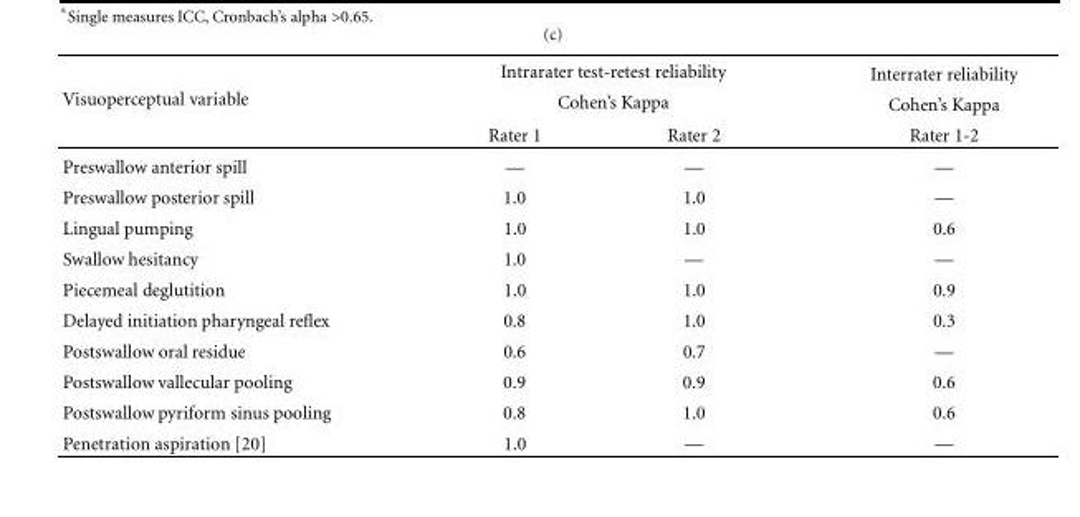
<table><tbody><tr><td rowspan="3">Visuoperceptual variable</td><td colspan="2">Intrarater test-retest reliability</td><td>Interrater reliability</td></tr><tr><td colspan="2">Cohen’s Kappa</td><td>Cohen’s Kappa</td></tr><tr><td>Rater 1</td><td>Rater 2</td><td>Rater 1-2</td></tr><tr><td>Preswallow anterior spill</td><td>—</td><td>—</td><td>—</td></tr><tr><td>Preswallow posterior spill</td><td>1.0</td><td>1.0</td><td>—</td></tr><tr><td>Lingual pumping</td><td>1.0</td><td>1.0</td><td>0.6</td></tr><tr><td>Swallow hesitancy</td><td>1.0</td><td>—</td><td>—</td></tr><tr><td>Piecemeal deglutition</td><td>1.0</td><td>1.0</td><td>0.9</td></tr><tr><td>Delayed initiation pharyngeal reflex</td><td>0.8</td><td>1.0</td><td>0.3</td></tr><tr><td>Postswallow oral residue</td><td>0.6</td><td>0.7</td><td>—</td></tr><tr><td>Postswallow vallecular pooling</td><td>0.9</td><td>0.9</td><td>0.6</td></tr><tr><td>Postswallow pyriform sinus pooling</td><td>0.8</td><td>1.0</td><td>0.6</td></tr><tr><td>Penetration aspiration [20]</td><td>1.0</td><td>—</td><td>—</td></tr></tbody></table>